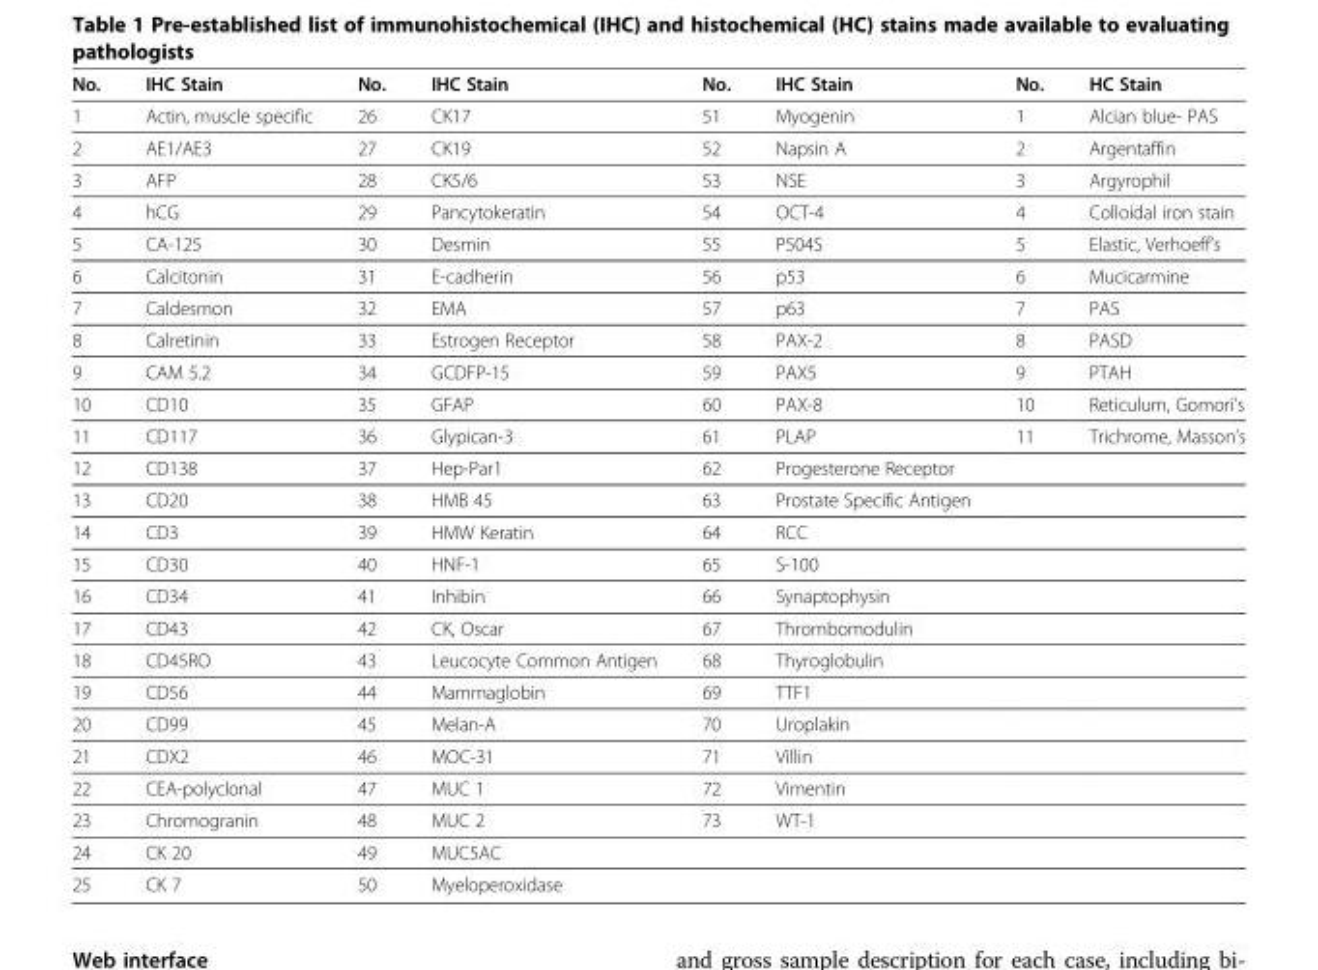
<table><thead><tr><td>No.</td><td>IHC Stain</td><td>No.</td><td>IHC Stain</td><td>No.</td><td>IHC Stain</td><td>No.</td><td>HC Stain</td></tr></thead><tbody><tr><td>1</td><td>Actin, muscle specific</td><td>26</td><td>CK17</td><td>51</td><td>Myogenin</td><td>1</td><td>Alcian blue- PAS</td></tr><tr><td>2</td><td>AE1/AE3</td><td>27</td><td>CK19</td><td>52</td><td>Napsin A</td><td>2</td><td>Argentaffin</td></tr><tr><td>3</td><td>AFP</td><td>28</td><td>CK5/6</td><td>53</td><td>NSE</td><td>3</td><td>Argyrophil</td></tr><tr><td>4</td><td>hCG</td><td>29</td><td>Pancytokeratin</td><td>54</td><td>OCT-4</td><td>4</td><td>Colloidal iron stain</td></tr><tr><td>5</td><td>CA-125</td><td>30</td><td>Desmin</td><td>55</td><td>P504S</td><td>5</td><td>Elastic, Verhoeff’s</td></tr><tr><td>6</td><td>Calcitonin</td><td>31</td><td>E-cadherin</td><td>56</td><td>p53</td><td>6</td><td>Mucicarmine</td></tr><tr><td>7</td><td>Caldesmon</td><td>32</td><td>EMA</td><td>57</td><td>p63</td><td>7</td><td>PAS</td></tr><tr><td>8</td><td>Calretinin</td><td>33</td><td>Estrogen Receptor</td><td>58</td><td>PAX-2</td><td>8</td><td>PASD</td></tr><tr><td>9</td><td>CAM 5.2</td><td>34</td><td>GCDFP-15</td><td>59</td><td>PAX5</td><td>9</td><td>PTAH</td></tr><tr><td>10</td><td>CD10</td><td>35</td><td>GFAP</td><td>60</td><td>PAX-8</td><td>10</td><td>Reticulum, Gomori’s</td></tr><tr><td>11</td><td>CD117</td><td>36</td><td>Glypican-3</td><td>61</td><td>PLAP</td><td>11</td><td>Trichrome, Masson’s</td></tr><tr><td>12</td><td>CD138</td><td>37</td><td>Hep-Par1</td><td>62</td><td>Progesterone Receptor</td><td></td><td></td></tr><tr><td>13</td><td>CD20</td><td>38</td><td>HMB 45</td><td>63</td><td>Prostate Specific Antigen</td><td></td><td></td></tr><tr><td>14</td><td>CD3</td><td>39</td><td>HMW Keratin</td><td>64</td><td>RCC</td><td></td><td></td></tr><tr><td>15</td><td>CD30</td><td>40</td><td>HNF-1</td><td>65</td><td>S-100</td><td></td><td></td></tr><tr><td>16</td><td>CD34</td><td>41</td><td>Inhibin</td><td>66</td><td>Synaptophysin</td><td></td><td></td></tr><tr><td>17</td><td>CD43</td><td>42</td><td>CK, Oscar</td><td>67</td><td>Thrombomodulin</td><td></td><td></td></tr><tr><td>18</td><td>CD45RO</td><td>43</td><td>Leucocyte Common Antigen</td><td>68</td><td>Thyroglobulin</td><td></td><td></td></tr><tr><td>19</td><td>CD56</td><td>44</td><td>Mammaglobin</td><td>69</td><td>TTF1</td><td></td><td></td></tr><tr><td>20</td><td>CD99</td><td>45</td><td>Melan-A</td><td>70</td><td>Uroplakin</td><td></td><td></td></tr><tr><td>21</td><td>CDX2</td><td>46</td><td>MOC-31</td><td>71</td><td>Villin</td><td></td><td></td></tr><tr><td>22</td><td>CEA-polyclonal</td><td>47</td><td>MUC 1</td><td>72</td><td>Vimentin</td><td></td><td></td></tr><tr><td>23</td><td>Chromogranin</td><td>48</td><td>MUC 2</td><td>73</td><td>WT-1</td><td></td><td></td></tr><tr><td>24</td><td>CK 20</td><td>49</td><td>MUC5AC</td><td></td><td></td><td></td><td></td></tr><tr><td>25</td><td>CK 7</td><td>50</td><td>Myeloperoxidase</td><td></td><td></td><td></td><td></td></tr></tbody></table>